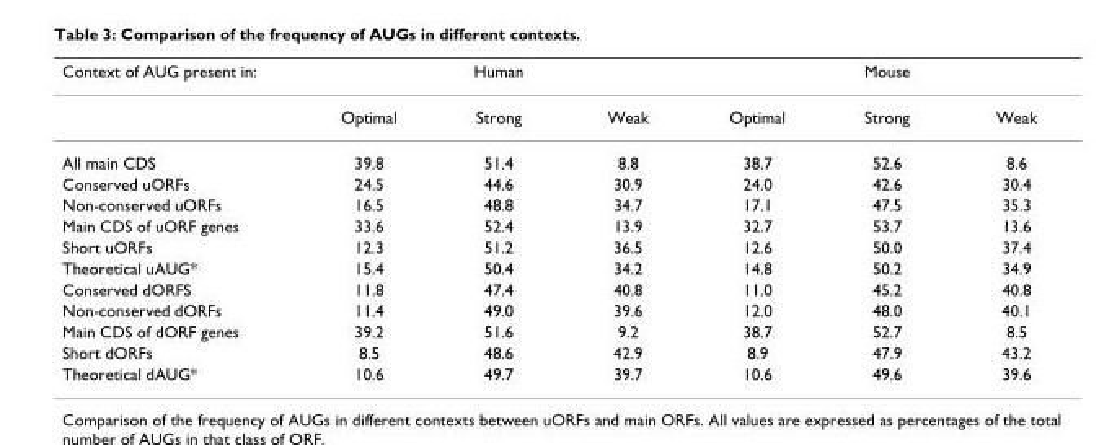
<table><thead><tr><td rowspan="2">Context of AUG present in:</td><td colspan="3">Human</td><td colspan="3">Mouse</td></tr><tr><td>Optimal</td><td>Strong</td><td>Weak</td><td>Optimal</td><td>Strong</td><td>Weak</td></tr></thead><tbody><tr><td>All main CDS</td><td>39.8</td><td>51.4</td><td>8.8</td><td>38.7</td><td>52.6</td><td>8.6</td></tr><tr><td>Conserved uORFs</td><td>24.5</td><td>44.6</td><td>30.9</td><td>24.0</td><td>42.6</td><td>30.4</td></tr><tr><td>Non-conserved uORFs</td><td>16.5</td><td>48.8</td><td>34.7</td><td>17.1</td><td>47.5</td><td>35.3</td></tr><tr><td>Main CDS of uORF genes</td><td>33.6</td><td>52.4</td><td>13.9</td><td>32.7</td><td>53.7</td><td>13.6</td></tr><tr><td>Short uORFs</td><td>12.3</td><td>51.2</td><td>36.5</td><td>12.6</td><td>50.0</td><td>37.4</td></tr><tr><td>Theoretical uAUG*</td><td>15.4</td><td>50.4</td><td>34.2</td><td>14.8</td><td>50.2</td><td>34.9</td></tr><tr><td>Conserved dORFS</td><td>11.8</td><td>47.4</td><td>40.8</td><td>11.0</td><td>45.2</td><td>40.8</td></tr><tr><td>Non-conserved dORFs</td><td>11.4</td><td>49.0</td><td>39.6</td><td>12.0</td><td>48.0</td><td>40.1</td></tr><tr><td>Main CDS of dORF genes</td><td>39.2</td><td>51.6</td><td>9.2</td><td>38.7</td><td>52.7</td><td>8.5</td></tr><tr><td>Short dORFs</td><td>8.5</td><td>48.6</td><td>42.9</td><td>8.9</td><td>47.9</td><td>43.2</td></tr><tr><td>Theoretical dAUG*</td><td>10.6</td><td>49.7</td><td>39.7</td><td>10.6</td><td>49.6</td><td>39.6</td></tr></tbody></table>